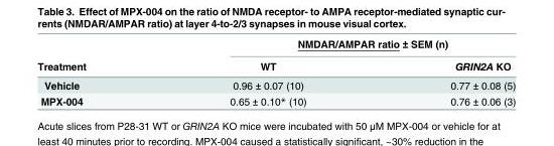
<table><thead><tr><td rowspan="2">Treatment</td><td colspan="2">NMDAR/AMPAR ratio ± SEM (n)</td></tr><tr><td>WT</td><td>GRIN2A KO</td></tr></thead><tbody><tr><td>Vehicle</td><td>0.96 ± 0.07 (10)</td><td>0.77 ± 0.08 (5)</td></tr><tr><td>MPX-004</td><td>0.65 ± 0.10* (10)</td><td>0.76 ± 0.06 (3)</td></tr></tbody></table>